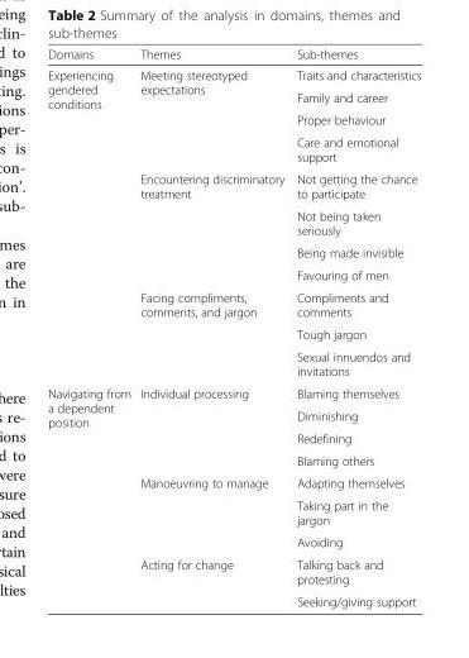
<table><thead><tr><td>Domains</td><td>Themes</td><td>Sub-themes</td></tr></thead><tbody><tr><td rowspan="11">Experiencing gendered conditions</td><td rowspan="4">Meeting stereotyped expectations</td><td>Traits and characteristics</td></tr><tr><td>Family and career</td></tr><tr><td>Proper behaviour</td></tr><tr><td>Care and emotional support</td></tr><tr><td rowspan="4">Encountering discriminatory treatment</td><td>Not getting the chance to participate</td></tr><tr><td>Not being taken seriously</td></tr><tr><td>Being made invisible</td></tr><tr><td>Favouring of men</td></tr><tr><td rowspan="3">Facing compliments, comments, and jargon</td><td>Compliments and comments</td></tr><tr><td>Tough jargon</td></tr><tr><td>Sexual innuendos and invitations</td></tr><tr><td rowspan="9">Navigating from a dependent position</td><td rowspan="4">Individual processing</td><td>Blaming themselves</td></tr><tr><td>Diminishing</td></tr><tr><td>Redefining</td></tr><tr><td>Blaming others</td></tr><tr><td rowspan="3">Manoeuvring to manage</td><td>Adapting themselves</td></tr><tr><td>Taking part in the jargon</td></tr><tr><td>Avoiding</td></tr><tr><td rowspan="2">Acting for change</td><td>Talking back and protesting</td></tr><tr><td>Seeking/giving support</td></tr></tbody></table>